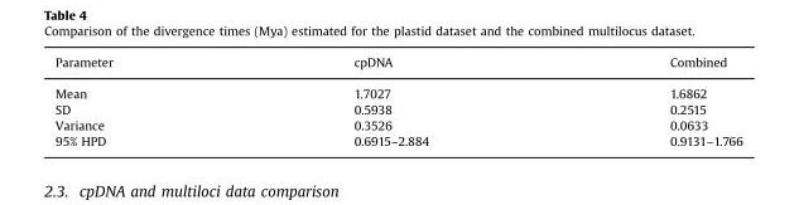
<table><thead><tr><td>Parameter</td><td>cpDNA</td><td>Combined</td></tr></thead><tbody><tr><td>Mean</td><td>1.7027</td><td>1.6862</td></tr><tr><td>SD</td><td>0.5938</td><td>0.2515</td></tr><tr><td>Variance</td><td>0.3526</td><td>0.0633</td></tr><tr><td>95% HPD</td><td>0.6915–2.884</td><td>0.9131–1.766</td></tr></tbody></table>